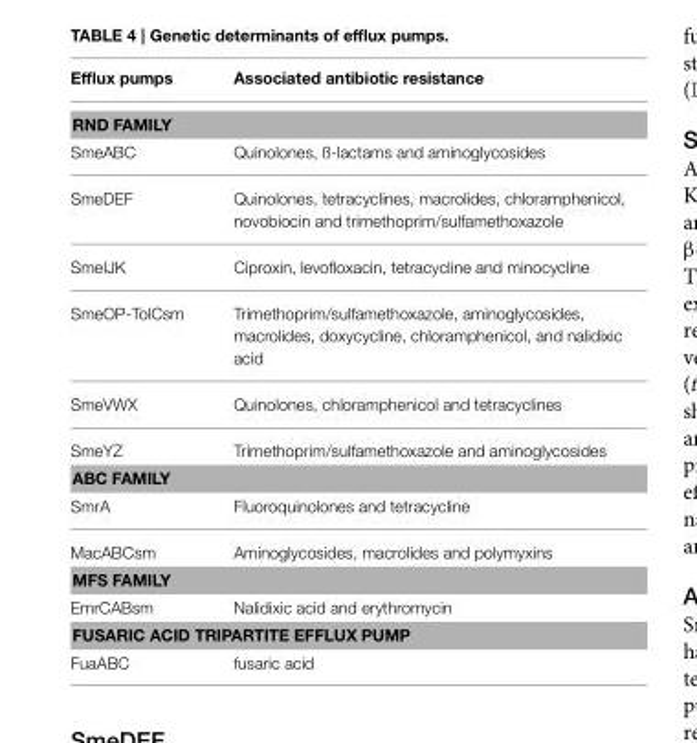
<table><thead><tr><td>Efflux pumps</td><td>Associated antibiotic resistance</td></tr></thead><tbody><tr><td colspan="2">RND FAMILY</td></tr><tr><td>SmeABC</td><td>Quinolones, ß-lactams and aminoglycosides</td></tr><tr><td>SmeDEF</td><td>Quinolones, tetracyclines, macrolides, chloramphenicol, novobiocin and trimethoprim/sulfamethoxazole</td></tr><tr><td>SmeIJK</td><td>Ciproxin, levofloxacin, tetracycline and minocycline</td></tr><tr><td>SmeOP-TolCsm</td><td>Trimethoprim/sulfamethoxazole, aminoglycosides, macrolides, doxycycline, chloramphenicol, and nalidixic acid</td></tr><tr><td>SmeVWX</td><td>Quinolones, chloramphenicol and tetracyclines</td></tr><tr><td>SmeYZ</td><td>Trimethoprim/sulfamethoxazole and aminoglycosides</td></tr><tr><td colspan="2">ABC FAMILY</td></tr><tr><td>SmrA</td><td>Fluoroquinolones and tetracycline</td></tr><tr><td>MacABCsm</td><td>Aminoglycosides, macrolides and polymyxins</td></tr><tr><td colspan="2">MFS FAMILY</td></tr><tr><td>EmrCABsm</td><td>Nalidixic acid and erythromycin</td></tr><tr><td colspan="2">FUSARIC ACID TRIPARTITE EFFLUX PUMP</td></tr><tr><td>FuaABC</td><td>fusaric acid</td></tr></tbody></table>